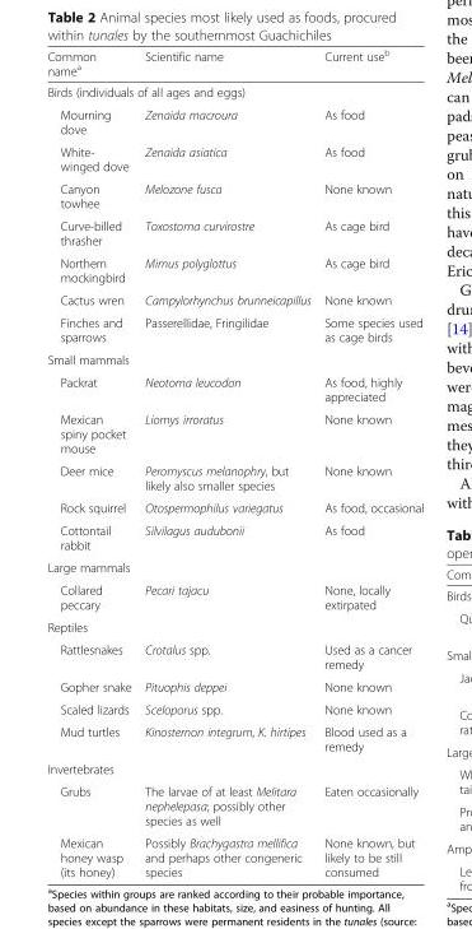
<table><thead><tr><td>Common name<sup>a</sup></td><td>Scientific name</td><td>Current use<sup>b</sup></td></tr></thead><tbody><tr><td colspan="3">Birds (individuals of all ages and eggs)</td></tr><tr><td>Mourning dove</td><td>Zenaida macroura</td><td>As food</td></tr><tr><td>White- winged dove</td><td>Zenaida asiatica</td><td>As food</td></tr><tr><td>Canyon towhee</td><td>Melozone fusca</td><td>None known</td></tr><tr><td>Curve-billed thrasher</td><td>Toxostoma curvirostre</td><td>As cage bird</td></tr><tr><td>Northern mockingbird</td><td>Mimus polyglottus</td><td>As cage bird</td></tr><tr><td>Cactus wren</td><td>Campylorhynchus brunneicapillus</td><td>None known</td></tr><tr><td>Finches and sparrows</td><td>Passerellidae, Fringilidae</td><td>Some species used as cage birds</td></tr><tr><td colspan="3">Small mammals</td></tr><tr><td>Packrat</td><td>Neotoma leucodon</td><td>As food, highly appreciated</td></tr><tr><td>Mexican spiny pocket mouse</td><td>Liomys irroratus</td><td>None known</td></tr><tr><td>Deer mice</td><td>Peromyscus melanophry, but likely also smaller species</td><td>None known</td></tr><tr><td>Rock squirrel</td><td>Otospermophilus variegatus</td><td>As food, occasional</td></tr><tr><td>Cottontail rabbit</td><td>Silvilagus audubonii</td><td>As food</td></tr><tr><td colspan="3">Large mammals</td></tr><tr><td>Collared peccary</td><td>Pecari tajacu</td><td>None, locally extirpated</td></tr><tr><td colspan="3">Reptiles</td></tr><tr><td>Rattlesnakes</td><td>Crotalus spp.</td><td>Used as a cancer remedy</td></tr><tr><td>Gopher snake</td><td>Pituophis deppei</td><td>None known</td></tr><tr><td>Scaled lizards</td><td>Sceloporus spp.</td><td>None known</td></tr><tr><td>Mud turtles</td><td>Kinosternon integrum, K. hirtipes</td><td>Blood used as a remedy</td></tr><tr><td colspan="3">Invertebrates</td></tr><tr><td>Grubs</td><td>The larvae of at least Melitara nephelepasa; possibly other species as well</td><td>Eaten occasionally</td></tr><tr><td>Mexican honey wasp (its honey)</td><td>Possibly Brachygastra mellifica and perhaps other congeneric species</td><td>None known, but likely to be still consumed</td></tr></tbody></table>